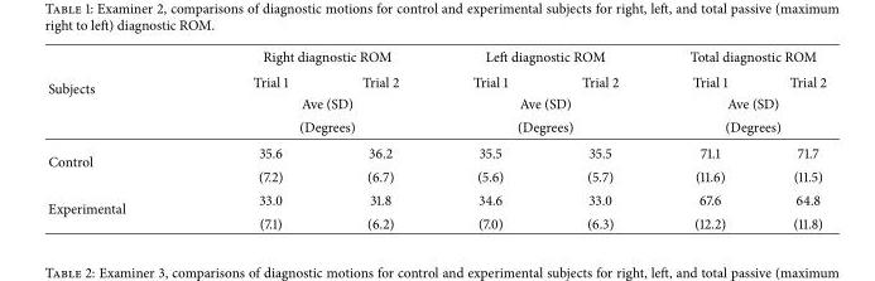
<table><thead><tr><td rowspan="4">Subjects</td><td colspan="2">Right diagnostic ROM</td><td colspan="2">Left diagnostic ROM</td><td colspan="2">Total diagnostic ROM</td></tr><tr><td>Trial 1</td><td>Trial 2</td><td>Trial 1</td><td>Trial 2</td><td>Trial 1</td><td>Trial 2</td></tr><tr><td rowspan="2" colspan="2">Ave (SD) (Degrees)</td><td rowspan="2" colspan="2">Ave (SD) (Degrees)</td><td rowspan="2" colspan="2">Ave (SD) (Degrees)</td></tr><tr></tr></thead><tbody><tr><td rowspan="2">Control</td><td>35.6</td><td>36.2</td><td>35.5</td><td>35.5</td><td>71.1</td><td>71.7</td></tr><tr><td>(7.2)</td><td>(6.7)</td><td>(5.6)</td><td>(5.7)</td><td>(11.6)</td><td>(11.5)</td></tr><tr><td rowspan="2">Experimental</td><td>33.0</td><td>31.8</td><td>34.6</td><td>33.0</td><td>67.6</td><td>64.8</td></tr><tr><td>(7.1)</td><td>(6.2)</td><td>(7.0)</td><td>(6.3)</td><td>(12.2)</td><td>(11.8)</td></tr></tbody></table>